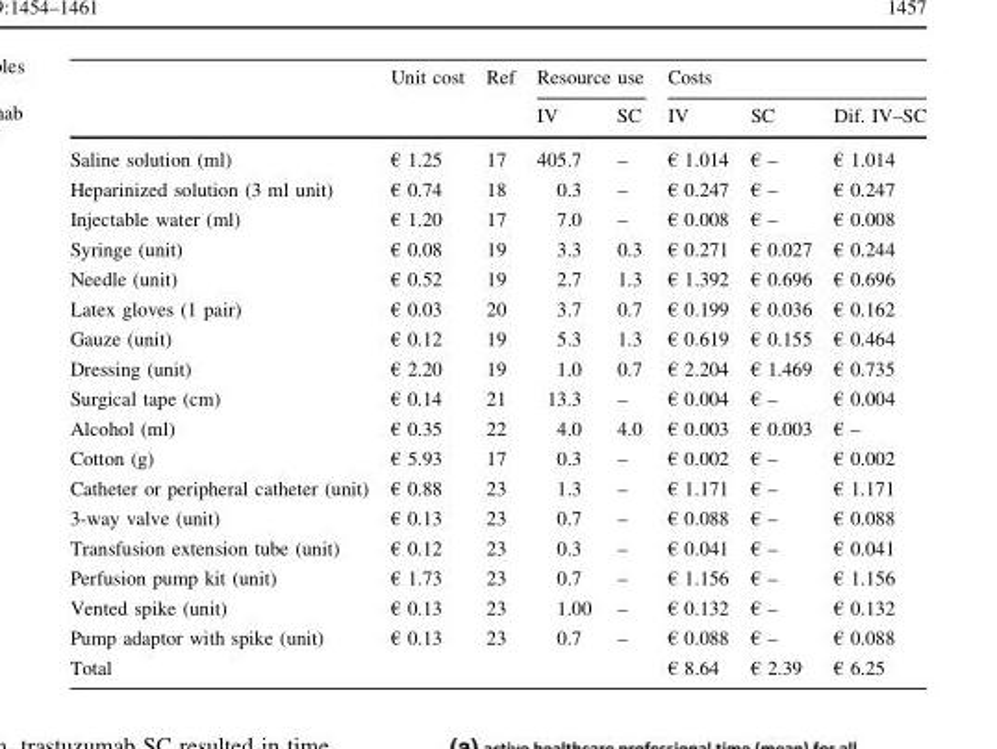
<table><thead><tr><td rowspan="2"></td><td rowspan="2">Unit cost</td><td rowspan="2">Ref</td><td colspan="2">Resource use</td><td colspan="3">Costs</td></tr><tr><td>IV</td><td>SC</td><td>IV</td><td>SC</td><td>Dif. IV–SC</td></tr></thead><tbody><tr><td>Saline solution (ml)</td><td>€ 1.25</td><td>17</td><td>405.7</td><td>–</td><td>€ 1.014</td><td>€ –</td><td>€ 1.014</td></tr><tr><td>Heparinized solution (3 ml unit)</td><td>€ 0.74</td><td>18</td><td>0.3</td><td>–</td><td>€ 0.247</td><td>€ –</td><td>€ 0.247</td></tr><tr><td>Injectable water (ml)</td><td>€ 1.20</td><td>17</td><td>7.0</td><td>–</td><td>€ 0.008</td><td>€ –</td><td>€ 0.008</td></tr><tr><td>Syringe (unit)</td><td>€ 0.08</td><td>19</td><td>3.3</td><td>0.3</td><td>€ 0.271</td><td>€ 0.027</td><td>€ 0.244</td></tr><tr><td>Needle (unit)</td><td>€ 0.52</td><td>19</td><td>2.7</td><td>1.3</td><td>€ 1.392</td><td>€ 0.696</td><td>€ 0.696</td></tr><tr><td>Latex gloves (1 pair)</td><td>€ 0.03</td><td>20</td><td>3.7</td><td>0.7</td><td>€ 0.199</td><td>€ 0.036</td><td>€ 0.162</td></tr><tr><td>Gauze (unit)</td><td>€ 0.12</td><td>19</td><td>5.3</td><td>1.3</td><td>€ 0.619</td><td>€ 0.155</td><td>€ 0.464</td></tr><tr><td>Dressing (unit)</td><td>€ 2.20</td><td>19</td><td>1.0</td><td>0.7</td><td>€ 2.204</td><td>€ 1.469</td><td>€ 0.735</td></tr><tr><td>Surgical tape (cm)</td><td>€ 0.14</td><td>21</td><td>13.3</td><td>–</td><td>€ 0.004</td><td>€ –</td><td>€ 0.004</td></tr><tr><td>Alcohol (ml)</td><td>€ 0.35</td><td>22</td><td>4.0</td><td>4.0</td><td>€ 0.003</td><td>€ 0.003</td><td>€ –</td></tr><tr><td>Cotton (g)</td><td>€ 5.93</td><td>17</td><td>0.3</td><td>–</td><td>€ 0.002</td><td>€ –</td><td>€ 0.002</td></tr><tr><td>Catheter or peripheral catheter (unit)</td><td>€ 0.88</td><td>23</td><td>1.3</td><td>–</td><td>€ 1.171</td><td>€ –</td><td>€ 1.171</td></tr><tr><td>3-way valve (unit)</td><td>€ 0.13</td><td>23</td><td>0.7</td><td>–</td><td>€ 0.088</td><td>€ –</td><td>€ 0.088</td></tr><tr><td>Transfusion extension tube (unit)</td><td>€ 0.12</td><td>23</td><td>0.3</td><td>–</td><td>€ 0.041</td><td>€ –</td><td>€ 0.041</td></tr><tr><td>Perfusion pump kit (unit)</td><td>€ 1.73</td><td>23</td><td>0.7</td><td>–</td><td>€ 1.156</td><td>€ –</td><td>€ 1.156</td></tr><tr><td>Vented spike (unit)</td><td>€ 0.13</td><td>23</td><td>1.00</td><td>–</td><td>€ 0.132</td><td>€ –</td><td>€ 0.132</td></tr><tr><td>Pump adaptor with spike (unit)</td><td>€ 0.13</td><td>23</td><td>0.7</td><td>–</td><td>€ 0.088</td><td>€ –</td><td>€ 0.088</td></tr><tr><td>Total</td><td></td><td></td><td></td><td></td><td>€ 8.64</td><td>€ 2.39</td><td>€ 6.25</td></tr></tbody></table>